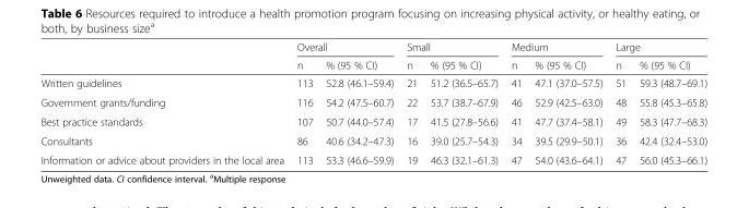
<table><thead><tr><td rowspan="2"></td><td colspan="2">Overall</td><td colspan="2">Small</td><td colspan="2">Medium</td><td colspan="2">Large</td></tr><tr><td>n</td><td>% (95 % CI)</td><td>n</td><td>% (95 % CI)</td><td>n</td><td>% (95 % CI)</td><td>n</td><td>% (95 % CI)</td></tr></thead><tbody><tr><td>Written guidelines</td><td>113</td><td>52.8 (46.1–59.4)</td><td>21</td><td>51.2 (36.5–65.7)</td><td>41</td><td>47.1 (37.0–57.5)</td><td>51</td><td>59.3 (48.7–69.1)</td></tr><tr><td>Government grants/funding</td><td>116</td><td>54.2 (47.5–60.7)</td><td>22</td><td>53.7 (38.7–67.9)</td><td>46</td><td>52.9 (42.5–63.0)</td><td>48</td><td>55.8 (45.3–65.8)</td></tr><tr><td>Best practice standards</td><td>107</td><td>50.7 (44.0–57.4)</td><td>17</td><td>41.5 (27.8–56.6)</td><td>41</td><td>47.7 (37.4–58.1)</td><td>49</td><td>58.3 (47.7–68.3)</td></tr><tr><td>Consultants</td><td>86</td><td>40.6 (34.2–47.3)</td><td>16</td><td>39.0 (25.7–54.3)</td><td>34</td><td>39.5 (29.9–50.1)</td><td>36</td><td>42.4 (32.4–53.0)</td></tr><tr><td>Information or advice about providers in the local area</td><td>113</td><td>53.3 (46.6–59.9)</td><td>19</td><td>46.3 (32.1–61.3)</td><td>47</td><td>54.0 (43.6–64.1)</td><td>47</td><td>56.0 (45.3–66.1)</td></tr></tbody></table>